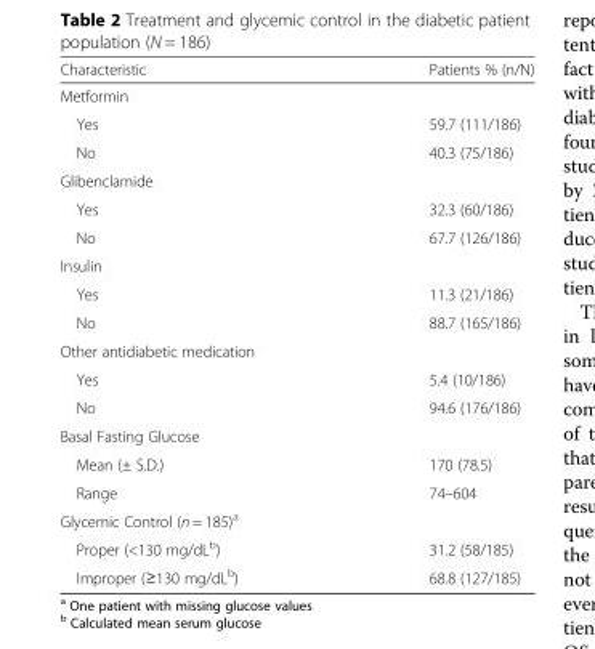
<table><thead><tr><td>Characteristic</td><td>Patients % (n/N)</td></tr></thead><tbody><tr><td colspan="2">Metformin</td></tr><tr><td>Yes</td><td>59.7 (111/186)</td></tr><tr><td>No</td><td>40.3 (75/186)</td></tr><tr><td colspan="2">Glibenclamide</td></tr><tr><td>Yes</td><td>32.3 (60/186)</td></tr><tr><td>No</td><td>67.7 (126/186)</td></tr><tr><td colspan="2">Insulin</td></tr><tr><td>Yes</td><td>11.3 (21/186)</td></tr><tr><td>No</td><td>88.7 (165/186)</td></tr><tr><td colspan="2">Other antidiabetic medication</td></tr><tr><td>Yes</td><td>5.4 (10/186)</td></tr><tr><td>No</td><td>94.6 (176/186)</td></tr><tr><td colspan="2">Basal Fasting Glucose</td></tr><tr><td>Mean (± S.D.)</td><td>170 (78.5)</td></tr><tr><td>Range</td><td>74–604</td></tr><tr><td colspan="2">Glycemic Control (n = 185)<sup>a</sup></td></tr><tr><td>Proper (&lt;130 mg/dL<sup>b</sup>)</td><td>31.2 (58/185)</td></tr><tr><td>Improper (≥130 mg/dL<sup>b</sup>)</td><td>68.8 (127/185)</td></tr></tbody></table>